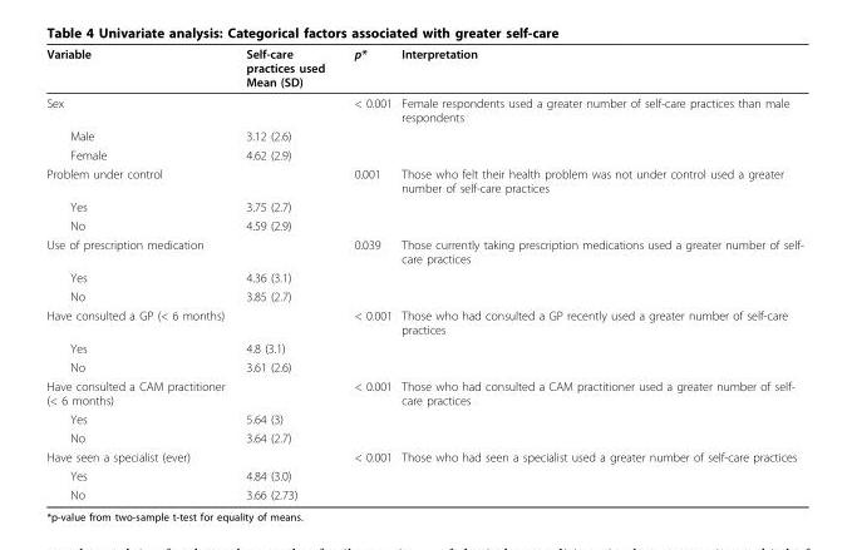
<table><thead><tr><td>Variable</td><td>Self-care practices used Mean (SD)</td><td>p*</td><td>Interpretation</td></tr></thead><tbody><tr><td>Sex</td><td></td><td>&lt; 0.001</td><td>Female respondents used a greater number of self-care practices than male respondents</td></tr><tr><td>Male</td><td>3.12 (2.6)</td><td></td><td></td></tr><tr><td>Female</td><td>4.62 (2.9)</td><td></td><td></td></tr><tr><td>Problem under control</td><td></td><td>0.001</td><td>Those who felt their health problem was not under control used a greater number of self-care practices</td></tr><tr><td>Yes</td><td>3.75 (2.7)</td><td></td><td></td></tr><tr><td>No</td><td>4.59 (2.9)</td><td></td><td></td></tr><tr><td>Use of prescription medication</td><td></td><td>0.039</td><td>Those currently taking prescription medications used a greater number of self- care practices</td></tr><tr><td>Yes</td><td>4.36 (3.1)</td><td></td><td></td></tr><tr><td>No</td><td>3.85 (2.7)</td><td></td><td></td></tr><tr><td>Have consulted a GP (&lt; 6 months)</td><td></td><td>&lt; 0.001</td><td>Those who had consulted a GP recently used a greater number of self-care practices</td></tr><tr><td>Yes</td><td>4.8 (3.1)</td><td></td><td></td></tr><tr><td>No</td><td>3.61 (2.6)</td><td></td><td></td></tr><tr><td>Have consulted a CAM practitioner (&lt; 6 months)</td><td></td><td>&lt; 0.001</td><td>Those who had consulted a CAM practitioner used a greater number of self- care practices</td></tr><tr><td>Yes</td><td>5.64 (3)</td><td></td><td></td></tr><tr><td>No</td><td>3.64 (2.7)</td><td></td><td></td></tr><tr><td>Have seen a specialist (ever)</td><td></td><td>&lt; 0.001</td><td>Those who had seen a specialist used a greater number of self-care practices</td></tr><tr><td>Yes</td><td>4.84 (3.0)</td><td></td><td></td></tr><tr><td>No</td><td>3.66 (2.73)</td><td></td><td></td></tr></tbody></table>